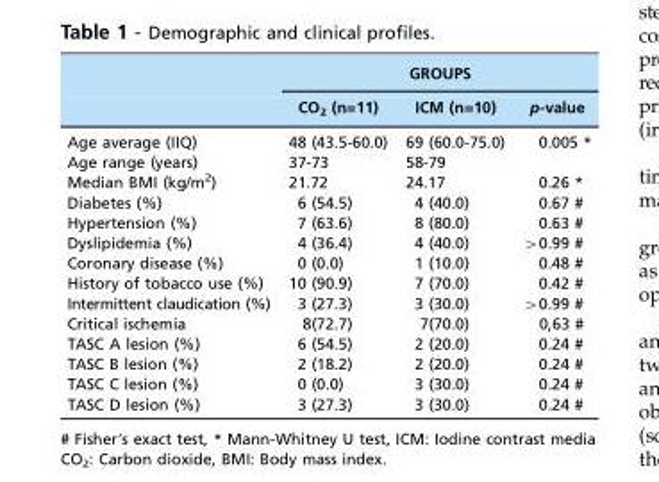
<table><thead><tr><td rowspan="2"></td><td colspan="3">GROUPS</td></tr><tr><td>CO<sub>2</sub> (n=11)</td><td>ICM (n=10)</td><td>p-value</td></tr></thead><tbody><tr><td>Age average (IIQ)</td><td>48 (43.5-60.0)</td><td>69 (60.0-75.0)</td><td>0.005 *</td></tr><tr><td>Age range (years)</td><td>37-73</td><td>58-79</td><td></td></tr><tr><td>Median BMI (kg/m<sup>2</sup>)</td><td>21.72</td><td>24.17</td><td>0.26 *</td></tr><tr><td>Diabetes (%)</td><td>6 (54.5)</td><td>4 (40.0)</td><td>0.67 #</td></tr><tr><td>Hypertension (%)</td><td>7 (63.6)</td><td>8 (80.0)</td><td>0.63 #</td></tr><tr><td>Dyslipidemia (%)</td><td>4 (36.4)</td><td>4 (40.0)</td><td>&gt;0.99 #</td></tr><tr><td>Coronary disease (%)</td><td>0 (0.0)</td><td>1 (10.0)</td><td>0.48 #</td></tr><tr><td>History of tobacco use (%)</td><td>10 (90.9)</td><td>7 (70.0)</td><td>0.42 #</td></tr><tr><td>Intermittent claudication (%)</td><td>3 (27.3)</td><td>3 (30.0)</td><td>&gt;0.99 #</td></tr><tr><td>Critical ischemia</td><td>8(72.7)</td><td>7(70.0)</td><td>0,63 #</td></tr><tr><td>TASC A lesion (%)</td><td>6 (54.5)</td><td>2 (20.0)</td><td>0.24 #</td></tr><tr><td>TASC B lesion (%)</td><td>2 (18.2)</td><td>2 (20.0)</td><td>0.24 #</td></tr><tr><td>TASC C lesion (%)</td><td>0 (0.0)</td><td>3 (30.0)</td><td>0.24 #</td></tr><tr><td>TASC D lesion (%)</td><td>3 (27.3)</td><td>3 (30.0)</td><td>0.24 #</td></tr></tbody></table>